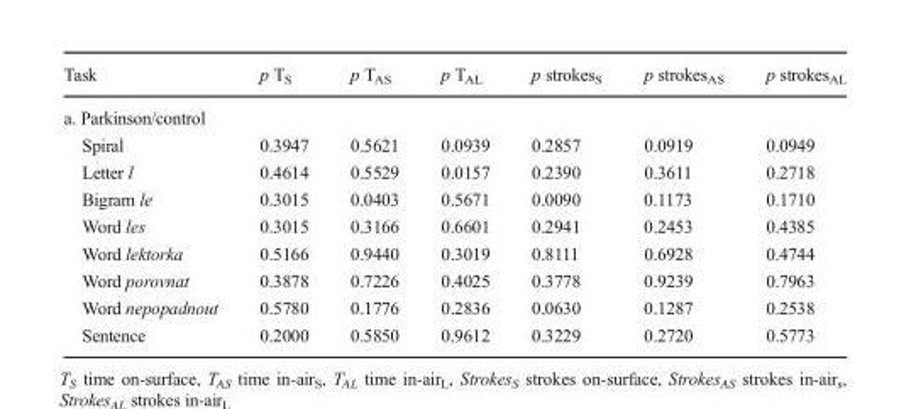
<table><thead><tr><td>Task</td><td>p T<sub>S</sub></td><td>p T<sub>AS</sub></td><td>p T<sub>AL</sub></td><td>p strokes<sub>S</sub></td><td>p strokes<sub>AS</sub></td><td>p strokes<sub>AL</sub></td></tr></thead><tbody><tr><td colspan="7">a. Parkinson/control</td></tr><tr><td>Spiral</td><td>0.3947</td><td>0.5621</td><td>0.0939</td><td>0.2857</td><td>0.0919</td><td>0.0949</td></tr><tr><td>Letter l</td><td>0.4614</td><td>0.5529</td><td>0.0157</td><td>0.2390</td><td>0.3611</td><td>0.2718</td></tr><tr><td>Bigram le</td><td>0.3015</td><td>0.0403</td><td>0.5671</td><td>0.0090</td><td>0.1173</td><td>0.1710</td></tr><tr><td>Word les</td><td>0.3015</td><td>0.3166</td><td>0.6601</td><td>0.2941</td><td>0.2453</td><td>0.4385</td></tr><tr><td>Word lektorka</td><td>0.5166</td><td>0.9440</td><td>0.3019</td><td>0.8111</td><td>0.6928</td><td>0.4744</td></tr><tr><td>Word porovnat</td><td>0.3878</td><td>0.7226</td><td>0.4025</td><td>0.3778</td><td>0.9239</td><td>0.7963</td></tr><tr><td>Word nepopadnout</td><td>0.5780</td><td>0.1776</td><td>0.2836</td><td>0.0630</td><td>0.1287</td><td>0.2538</td></tr><tr><td>Sentence</td><td>0.2000</td><td>0.5850</td><td>0.9612</td><td>0.3229</td><td>0.2720</td><td>0.5773</td></tr></tbody></table>